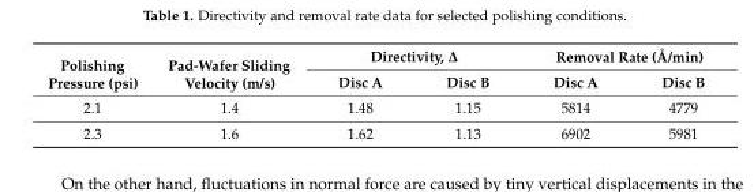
<table><thead><tr><td rowspan="2">Polishing Pressure (psi)</td><td rowspan="2">Pad-Wafer Sliding Velocity (m/s)</td><td colspan="2">Directivity, ∆</td><td colspan="2">Removal Rate (Å/min)</td></tr><tr><td>Disc A</td><td>Disc B</td><td>Disc A</td><td>Disc B</td></tr></thead><tbody><tr><td>2.1</td><td>1.4</td><td>1.48</td><td>1.15</td><td>5814</td><td>4779</td></tr><tr><td>2.3</td><td>1.6</td><td>1.62</td><td>1.13</td><td>6902</td><td>5981</td></tr></tbody></table>